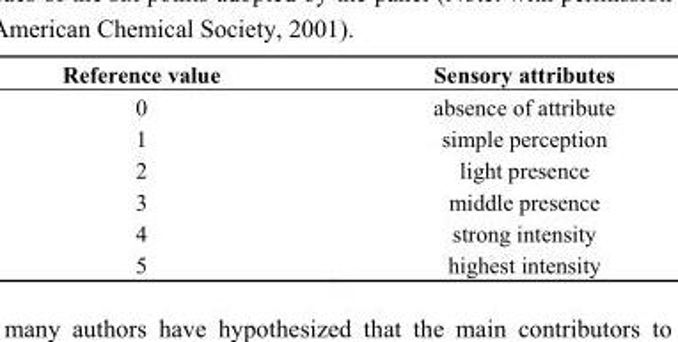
<table><thead><tr><td>Reference value</td><td>Sensory attributes</td></tr></thead><tbody><tr><td>0</td><td>absence of attribute</td></tr><tr><td>1</td><td>simple perception</td></tr><tr><td>2</td><td>light presence</td></tr><tr><td>3</td><td>middle presence</td></tr><tr><td>4</td><td>strong intensity</td></tr><tr><td>5</td><td>highest intensity</td></tr></tbody></table>